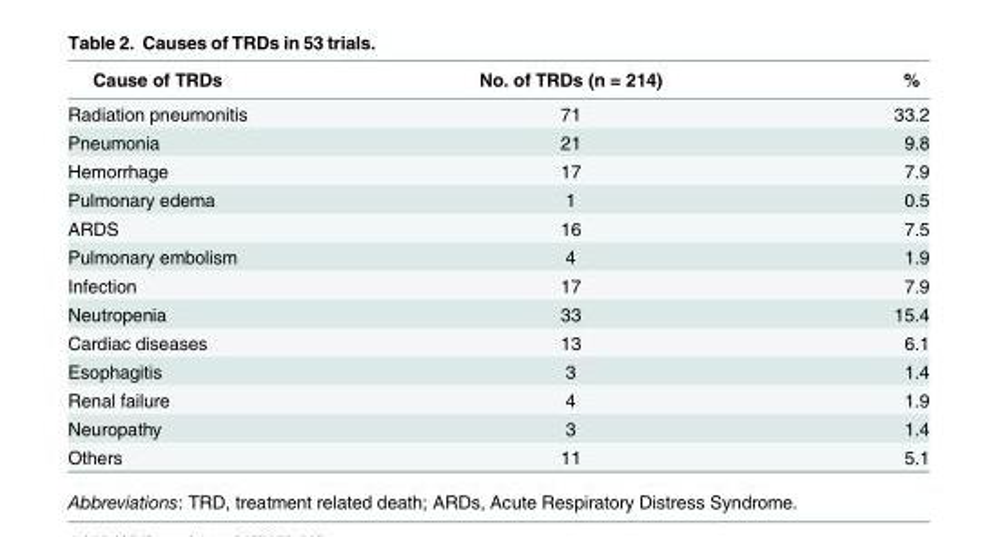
<table><thead><tr><td>Cause of TRDs</td><td>No. of TRDs (n = 214)</td><td>%</td></tr></thead><tbody><tr><td>Radiation pneumonitis</td><td>71</td><td>33.2</td></tr><tr><td>Pneumonia</td><td>21</td><td>9.8</td></tr><tr><td>Hemorrhage</td><td>17</td><td>7.9</td></tr><tr><td>Pulmonary edema</td><td>1</td><td>0.5</td></tr><tr><td>ARDS</td><td>16</td><td>7.5</td></tr><tr><td>Pulmonary embolism</td><td>4</td><td>1.9</td></tr><tr><td>Infection</td><td>17</td><td>7.9</td></tr><tr><td>Neutropenia</td><td>33</td><td>15.4</td></tr><tr><td>Cardiac diseases</td><td>13</td><td>6.1</td></tr><tr><td>Esophagitis</td><td>3</td><td>1.4</td></tr><tr><td>Renal failure</td><td>4</td><td>1.9</td></tr><tr><td>Neuropathy</td><td>3</td><td>1.4</td></tr><tr><td>Others</td><td>11</td><td>5.1</td></tr></tbody></table>